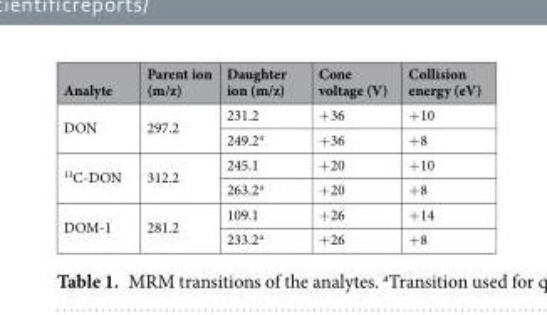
<table><thead><tr><td>Analyte</td><td>Parent ion (m/z)</td><td>Daughter ion (m/z)</td><td>Cone voltage (V)</td><td>Collision energy (eV)</td></tr></thead><tbody><tr><td rowspan="2">DON</td><td rowspan="2">297.2</td><td>231.2</td><td>+36</td><td>+10</td></tr><tr><td>249.2<sup>a</sup></td><td>+36</td><td>+8</td></tr><tr><td rowspan="2"><sup>13</sup>C-DON</td><td rowspan="2">312.2</td><td>245.1</td><td>+20</td><td>+10</td></tr><tr><td>263.2<sup>a</sup></td><td>+20</td><td>+8</td></tr><tr><td rowspan="2">DOM-1</td><td rowspan="2">281.2</td><td>109.1</td><td>+26</td><td>+14</td></tr><tr><td>233.2<sup>a</sup></td><td>+26</td><td>+8</td></tr></tbody></table>